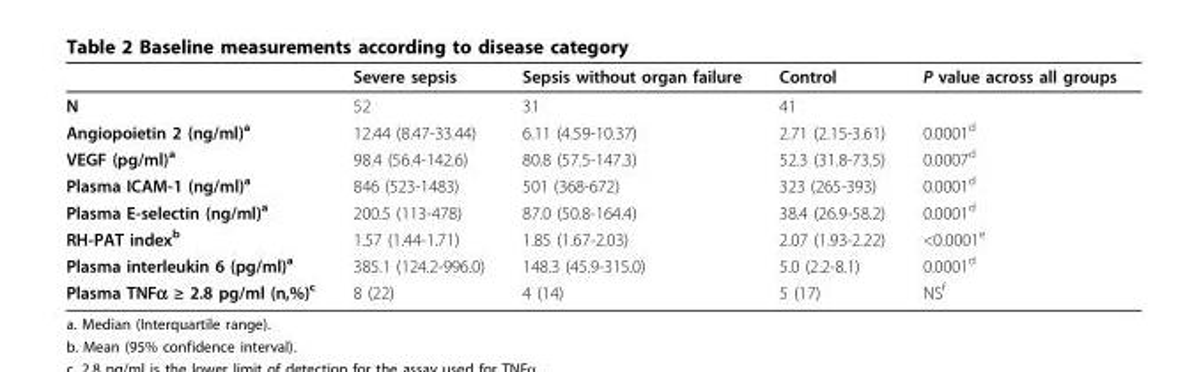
<table><thead><tr><td></td><td>Severe sepsis</td><td>Sepsis without organ failure</td><td>Control</td><td>P value across all groups</td></tr></thead><tbody><tr><td>N</td><td>52</td><td>31</td><td>41</td><td></td></tr><tr><td>Angiopoietin 2 (ng/ml)<sup>a</sup></td><td>12.44 (8.47-33.44)</td><td>6.11 (4.59-10.37)</td><td>2.71 (2.15-3.61)</td><td>0.0001<sup>d</sup></td></tr><tr><td>VEGF (pg/ml)<sup>a</sup></td><td>98.4 (56.4-142.6)</td><td>80.8 (57.5-147.3)</td><td>52.3 (31.8-73.5)</td><td>0.0007<sup>d</sup></td></tr><tr><td>Plasma ICAM-1 (ng/ml)<sup>a</sup></td><td>846 (523-1483)</td><td>501 (368-672)</td><td>323 (265-393)</td><td>0.0001<sup>d</sup></td></tr><tr><td>Plasma E-selectin (ng/ml)<sup>a</sup></td><td>200.5 (113-478)</td><td>87.0 (50.8-164.4)</td><td>38.4 (26.9-58.2)</td><td>0.0001<sup>d</sup></td></tr><tr><td>RH-PAT index<sup>b</sup></td><td>1.57 (1.44-1.71)</td><td>1.85 (1.67-2.03)</td><td>2.07 (1.93-2.22)</td><td>&lt;0.0001<sup>e</sup></td></tr><tr><td>Plasma interleukin 6 (pg/ml)<sup>a</sup></td><td>385.1 (124.2-996.0)</td><td>148.3 (45.9-315.0)</td><td>5.0 (2.2-8.1)</td><td>0.0001<sup>d</sup></td></tr><tr><td>Plasma TNFα ≥ 2.8 pg/ml (n,%)<sup>c</sup></td><td>8 (22)</td><td>4 (14)</td><td>5 (17)</td><td>NS<sup>f</sup></td></tr></tbody></table>